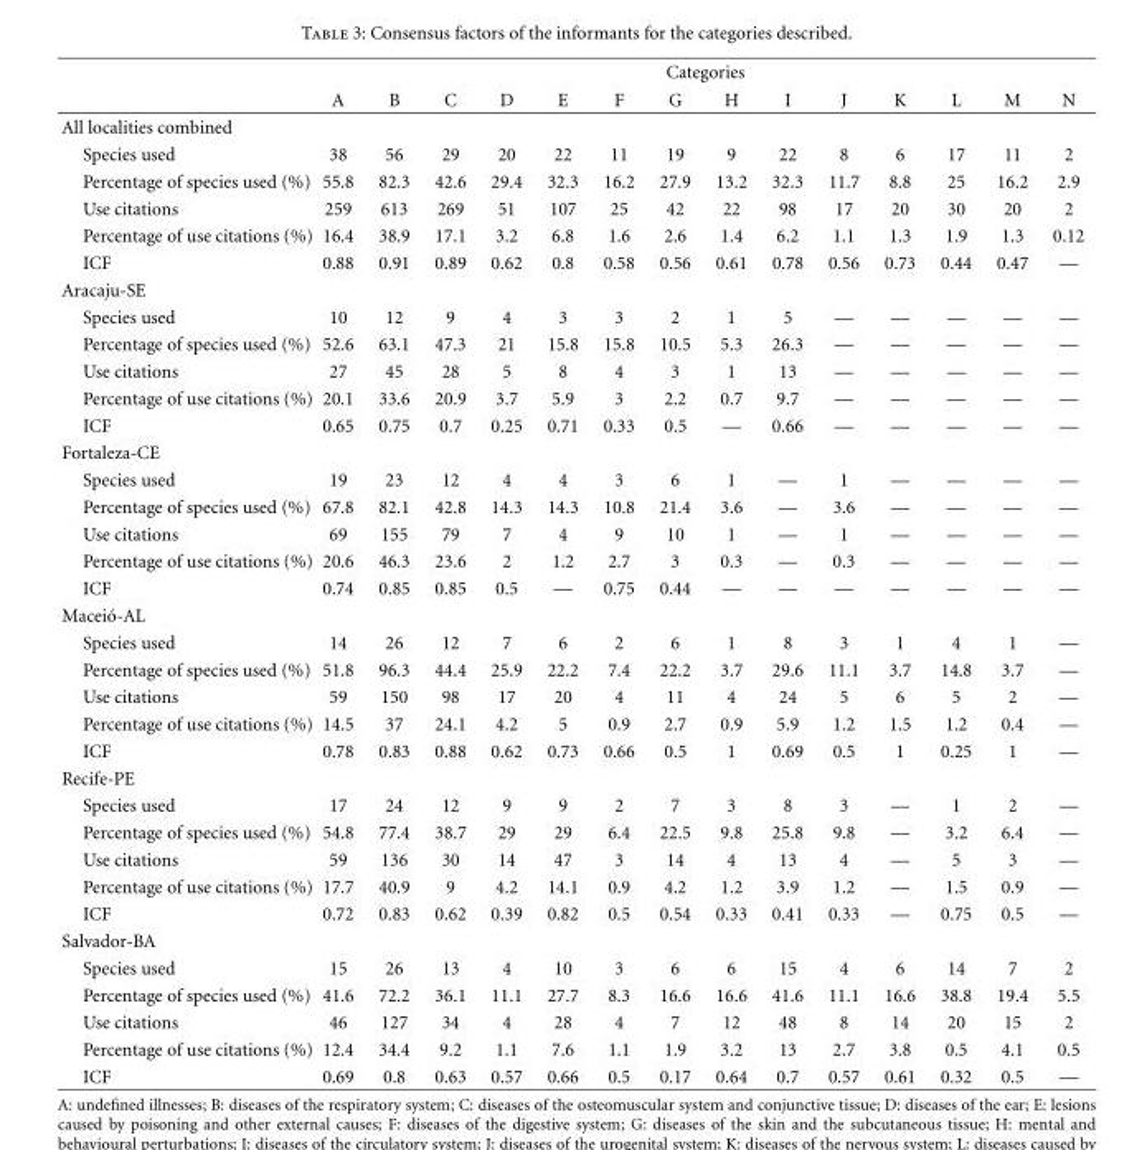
<table><thead><tr><td rowspan="2"></td><td colspan="14">Categories</td></tr><tr><td>A</td><td>B</td><td>C</td><td>D</td><td>E</td><td>F</td><td>G</td><td>H</td><td>I</td><td>J</td><td>K</td><td>L</td><td>M</td><td>N</td></tr></thead><tbody><tr><td colspan="15">All localities combined</td></tr><tr><td>Species used</td><td>38</td><td>56</td><td>29</td><td>20</td><td>22</td><td>11</td><td>19</td><td>9</td><td>22</td><td>8</td><td>6</td><td>17</td><td>11</td><td>2</td></tr><tr><td>Percentage of species used (%)</td><td>55.8</td><td>82.3</td><td>42.6</td><td>29.4</td><td>32.3</td><td>16.2</td><td>27.9</td><td>13.2</td><td>32.3</td><td>11.7</td><td>8.8</td><td>25</td><td>16.2</td><td>2.9</td></tr><tr><td>Use citations</td><td>259</td><td>613</td><td>269</td><td>51</td><td>107</td><td>25</td><td>42</td><td>22</td><td>98</td><td>17</td><td>20</td><td>30</td><td>20</td><td>2</td></tr><tr><td>Percentage of use citations (%)</td><td>16.4</td><td>38.9</td><td>17.1</td><td>3.2</td><td>6.8</td><td>1.6</td><td>2.6</td><td>1.4</td><td>6.2</td><td>1.1</td><td>1.3</td><td>1.9</td><td>1.3</td><td>0.12</td></tr><tr><td>ICF</td><td>0.88</td><td>0.91</td><td>0.89</td><td>0.62</td><td>0.8</td><td>0.58</td><td>0.56</td><td>0.61</td><td>0.78</td><td>0.56</td><td>0.73</td><td>0.44</td><td>0.47</td><td>—</td></tr><tr><td colspan="15">Aracaju-SE</td></tr><tr><td>Species used</td><td>10</td><td>12</td><td>9</td><td>4</td><td>3</td><td>3</td><td>2</td><td>1</td><td>5</td><td>—</td><td>—</td><td>—</td><td>—</td><td>—</td></tr><tr><td>Percentage of species used (%)</td><td>52.6</td><td>63.1</td><td>47.3</td><td>21</td><td>15.8</td><td>15.8</td><td>10.5</td><td>5.3</td><td>26.3</td><td>—</td><td>—</td><td>—</td><td>—</td><td>—</td></tr><tr><td>Use citations</td><td>27</td><td>45</td><td>28</td><td>5</td><td>8</td><td>4</td><td>3</td><td>1</td><td>13</td><td>—</td><td>—</td><td>—</td><td>—</td><td>—</td></tr><tr><td>Percentage of use citations (%)</td><td>20.1</td><td>33.6</td><td>20.9</td><td>3.7</td><td>5.9</td><td>3</td><td>2.2</td><td>0.7</td><td>9.7</td><td>—</td><td>—</td><td>—</td><td>—</td><td>—</td></tr><tr><td>ICF</td><td>0.65</td><td>0.75</td><td>0.7</td><td>0.25</td><td>0.71</td><td>0.33</td><td>0.5</td><td>—</td><td>0.66</td><td>—</td><td>—</td><td>—</td><td>—</td><td>—</td></tr><tr><td colspan="15">Fortaleza-CE</td></tr><tr><td>Species used</td><td>19</td><td>23</td><td>12</td><td>4</td><td>4</td><td>3</td><td>6</td><td>1</td><td>—</td><td>1</td><td>—</td><td>—</td><td>—</td><td>—</td></tr><tr><td>Percentage of species used (%)</td><td>67.8</td><td>82.1</td><td>42.8</td><td>14.3</td><td>14.3</td><td>10.8</td><td>21.4</td><td>3.6</td><td>—</td><td>3.6</td><td>—</td><td>—</td><td>—</td><td>—</td></tr><tr><td>Use citations</td><td>69</td><td>155</td><td>79</td><td>7</td><td>4</td><td>9</td><td>10</td><td>1</td><td>—</td><td>1</td><td>—</td><td>—</td><td>—</td><td>—</td></tr><tr><td>Percentage of use citations (%)</td><td>20.6</td><td>46.3</td><td>23.6</td><td>2</td><td>1.2</td><td>2.7</td><td>3</td><td>0.3</td><td>—</td><td>0.3</td><td>—</td><td>—</td><td>—</td><td>—</td></tr><tr><td>ICF</td><td>0.74</td><td>0.85</td><td>0.85</td><td>0.5</td><td>—</td><td>0.75</td><td>0.44</td><td>—</td><td>—</td><td>—</td><td>—</td><td>—</td><td>—</td><td>—</td></tr><tr><td colspan="15">Macei´o-AL</td></tr><tr><td>Species used</td><td>14</td><td>26</td><td>12</td><td>7</td><td>6</td><td>2</td><td>6</td><td>1</td><td>8</td><td>3</td><td>1</td><td>4</td><td>1</td><td>—</td></tr><tr><td>Percentage of species used (%)</td><td>51.8</td><td>96.3</td><td>44.4</td><td>25.9</td><td>22.2</td><td>7.4</td><td>22.2</td><td>3.7</td><td>29.6</td><td>11.1</td><td>3.7</td><td>14.8</td><td>3.7</td><td>—</td></tr><tr><td>Use citations</td><td>59</td><td>150</td><td>98</td><td>17</td><td>20</td><td>4</td><td>11</td><td>4</td><td>24</td><td>5</td><td>6</td><td>5</td><td>2</td><td>—</td></tr><tr><td>Percentage of use citations (%)</td><td>14.5</td><td>37</td><td>24.1</td><td>4.2</td><td>5</td><td>0.9</td><td>2.7</td><td>0.9</td><td>5.9</td><td>1.2</td><td>1.5</td><td>1.2</td><td>0.4</td><td>—</td></tr><tr><td>ICF</td><td>0.78</td><td>0.83</td><td>0.88</td><td>0.62</td><td>0.73</td><td>0.66</td><td>0.5</td><td>1</td><td>0.69</td><td>0.5</td><td>1</td><td>0.25</td><td>1</td><td>—</td></tr><tr><td colspan="15">Recife-PE</td></tr><tr><td>Species used</td><td>17</td><td>24</td><td>12</td><td>9</td><td>9</td><td>2</td><td>7</td><td>3</td><td>8</td><td>3</td><td>—</td><td>1</td><td>2</td><td>—</td></tr><tr><td>Percentage of species used (%)</td><td>54.8</td><td>77.4</td><td>38.7</td><td>29</td><td>29</td><td>6.4</td><td>22.5</td><td>9.8</td><td>25.8</td><td>9.8</td><td>—</td><td>3.2</td><td>6.4</td><td>—</td></tr><tr><td>Use citations</td><td>59</td><td>136</td><td>30</td><td>14</td><td>47</td><td>3</td><td>14</td><td>4</td><td>13</td><td>4</td><td>—</td><td>5</td><td>3</td><td>—</td></tr><tr><td>Percentage of use citations (%)</td><td>17.7</td><td>40.9</td><td>9</td><td>4.2</td><td>14.1</td><td>0.9</td><td>4.2</td><td>1.2</td><td>3.9</td><td>1.2</td><td>—</td><td>1.5</td><td>0.9</td><td>—</td></tr><tr><td>ICF</td><td>0.72</td><td>0.83</td><td>0.62</td><td>0.39</td><td>0.82</td><td>0.5</td><td>0.54</td><td>0.33</td><td>0.41</td><td>0.33</td><td>—</td><td>0.75</td><td>0.5</td><td>—</td></tr><tr><td colspan="15">Salvador-BA</td></tr><tr><td>Species used</td><td>15</td><td>26</td><td>13</td><td>4</td><td>10</td><td>3</td><td>6</td><td>6</td><td>15</td><td>4</td><td>6</td><td>14</td><td>7</td><td>2</td></tr><tr><td>Percentage of species used (%)</td><td>41.6</td><td>72.2</td><td>36.1</td><td>11.1</td><td>27.7</td><td>8.3</td><td>16.6</td><td>16.6</td><td>41.6</td><td>11.1</td><td>16.6</td><td>38.8</td><td>19.4</td><td>5.5</td></tr><tr><td>Use citations</td><td>46</td><td>127</td><td>34</td><td>4</td><td>28</td><td>4</td><td>7</td><td>12</td><td>48</td><td>8</td><td>14</td><td>20</td><td>15</td><td>2</td></tr><tr><td>Percentage of use citations (%)</td><td>12.4</td><td>34.4</td><td>9.2</td><td>1.1</td><td>7.6</td><td>1.1</td><td>1.9</td><td>3.2</td><td>13</td><td>2.7</td><td>3.8</td><td>0.5</td><td>4.1</td><td>0.5</td></tr><tr><td>ICF</td><td>0.69</td><td>0.8</td><td>0.63</td><td>0.57</td><td>0.66</td><td>0.5</td><td>0.17</td><td>0.64</td><td>0.7</td><td>0.57</td><td>0.61</td><td>0.32</td><td>0.5</td><td>—</td></tr></tbody></table>